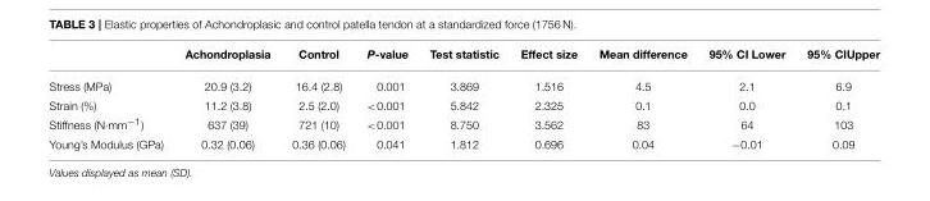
<table><thead><tr><td></td><td>Achondroplasia</td><td>Control</td><td>P-value</td><td>Test statistic</td><td>Effect size</td><td>Mean difference</td><td>95% CI Lower</td><td>95% CIUpper</td></tr></thead><tbody><tr><td>Stress (MPa)</td><td>20.9 (3.2)</td><td>16.4 (2.8)</td><td>0.001</td><td>3.869</td><td>1.516</td><td>4.5</td><td>2.1</td><td>6.9</td></tr><tr><td>Strain (%)</td><td>11.2 (3.8)</td><td>2.5 (2.0)</td><td>&lt;0.001</td><td>5.842</td><td>2.325</td><td>0.1</td><td>0.0</td><td>0.1</td></tr><tr><td>Stiffness (N·mm<sup>−1</sup>)</td><td>637 (39)</td><td>721 (10)</td><td>&lt;0.001</td><td>8.750</td><td>3.562</td><td>83</td><td>64</td><td>103</td></tr><tr><td>Young’s Modulus (GPa)</td><td>0.32 (0.06)</td><td>0.36 (0.06)</td><td>0.041</td><td>1.812</td><td>0.696</td><td>0.04</td><td>−0.01</td><td>0.09</td></tr></tbody></table>